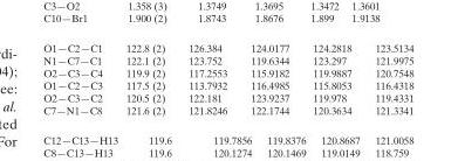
<table><tbody><tr><td>O1—C2—C1</td><td>122.8 (2)</td><td>126.384</td><td>124.0177</td><td>124.2818</td><td>123.5134</td></tr><tr><td>N1—C7—C1</td><td>122.1 (2)</td><td>123.752</td><td>119.6344</td><td>123.297</td><td>121.9975</td></tr><tr><td>O2—C3—C4</td><td>119.9 (2)</td><td>117.2553</td><td>115.9182</td><td>119.9887</td><td>120.7548</td></tr><tr><td>O1—C2—C3</td><td>117.5 (2)</td><td>113.7932</td><td>116.4985</td><td>115.8053</td><td>116.4318</td></tr><tr><td>O2—C3—C2</td><td>120.5 (2)</td><td>122.181</td><td>123.9237</td><td>119.978</td><td>119.4331</td></tr><tr><td>C7—N1—C8</td><td>121.6 (2)</td><td>121.8246</td><td>122.1744</td><td>120.3634</td><td>121.3341</td></tr></tbody></table>